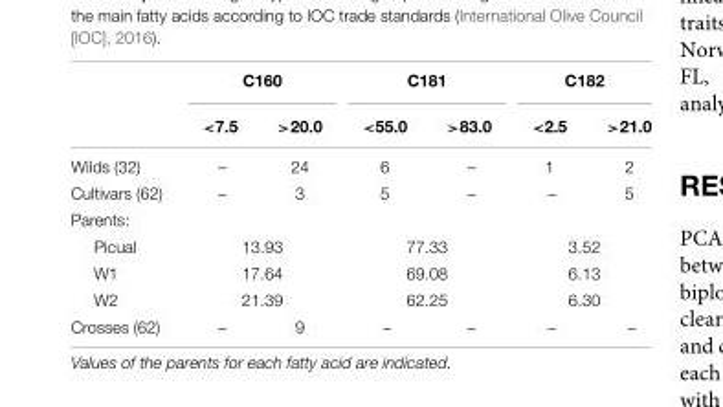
<table><thead><tr><td rowspan="2"></td><td colspan="2">C160</td><td colspan="2">C181</td><td colspan="2">C182</td></tr><tr><td>&lt;7.5</td><td>&gt;20.0</td><td>&lt;55.0</td><td>&gt;83.0</td><td>&lt;2.5</td><td>&gt;21.0</td></tr></thead><tbody><tr><td>Wilds (32)</td><td>–</td><td>24</td><td>6</td><td>–</td><td>1</td><td>2</td></tr><tr><td>Cultivars (62)</td><td>–</td><td>3</td><td>5</td><td>–</td><td>–</td><td>5</td></tr><tr><td colspan="7">Parents:</td></tr><tr><td>Picual</td><td colspan="2">13.93</td><td colspan="2">77.33</td><td colspan="2">3.52</td></tr><tr><td>W1</td><td colspan="2">17.64</td><td colspan="2">69.08</td><td colspan="2">6.13</td></tr><tr><td>W2</td><td colspan="2">21.39</td><td colspan="2">62.25</td><td colspan="2">6.30</td></tr><tr><td>Crosses (62)</td><td>–</td><td>9</td><td>–</td><td>–</td><td>–</td><td>–</td></tr></tbody></table>